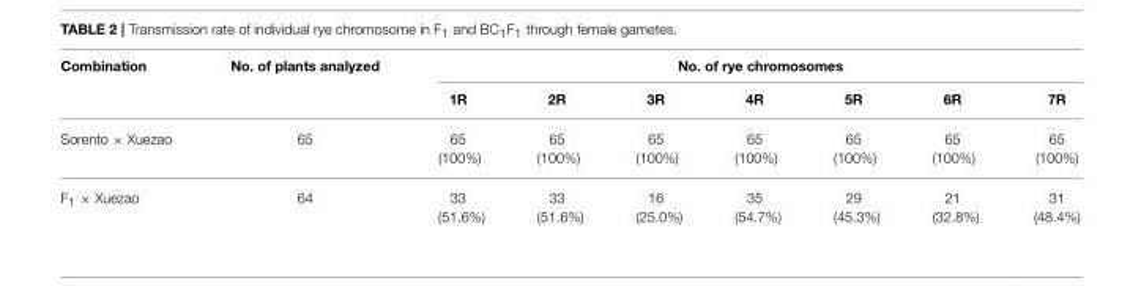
<table><thead><tr><td rowspan="2">Combination</td><td rowspan="2">No. of plants analyzed</td><td colspan="7">No. of rye chromosomes</td></tr><tr><td>1R</td><td>2R</td><td>3R</td><td>4R</td><td>5R</td><td>6R</td><td>7R</td></tr></thead><tbody><tr><td>Sorento × Xuezao</td><td>65</td><td>65 (100%)</td><td>65 (100%)</td><td>65 (100%)</td><td>65 (100%)</td><td>65 (100%)</td><td>65 (100%)</td><td>65 (100%)</td></tr><tr><td>F<sub>1</sub> × Xuezao</td><td>64</td><td>33 (51.6%)</td><td>33 (51.6%)</td><td>16 (25.0%)</td><td>35 (54.7%)</td><td>29 (45.3%)</td><td>21 (32.8%)</td><td>31 (48.4%)</td></tr></tbody></table>